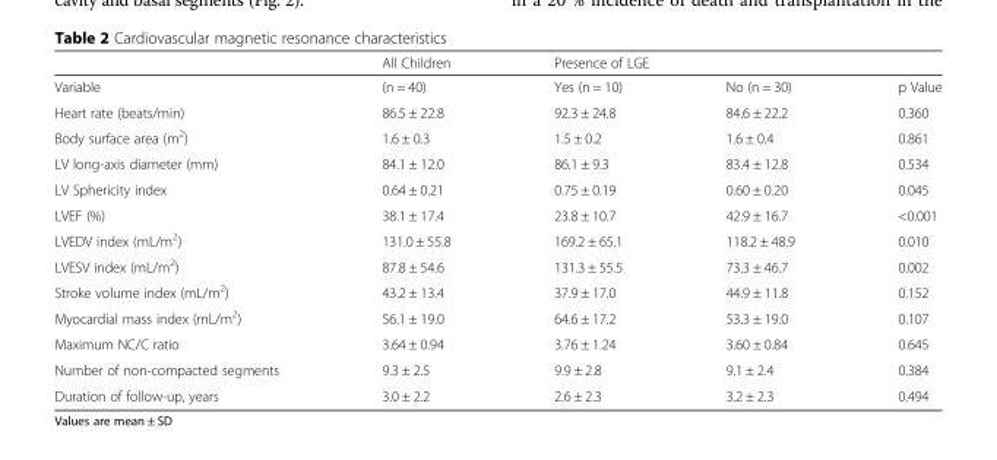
<table><thead><tr><td rowspan="2">Variable</td><td rowspan="2">All Children (n = 40)</td><td colspan="2">Presence of LGE</td><td rowspan="2">p Value</td></tr><tr><td>Yes (n = 10)</td><td>No (n = 30)</td></tr></thead><tbody><tr><td>Heart rate (beats/min)</td><td>86.5 ± 22.8</td><td>92.3 ± 24.8</td><td>84.6 ± 22.2</td><td>0.360</td></tr><tr><td>Body surface area (m<sup>2</sup>)</td><td>1.6 ± 0.3</td><td>1.5 ± 0.2</td><td>1.6 ± 0.4</td><td>0.861</td></tr><tr><td>LV long-axis diameter (mm)</td><td>84.1 ± 12.0</td><td>86.1 ± 9.3</td><td>83.4 ± 12.8</td><td>0.534</td></tr><tr><td>LV Sphericity index</td><td>0.64 ± 0.21</td><td>0.75 ± 0.19</td><td>0.60 ± 0.20</td><td>0.045</td></tr><tr><td>LVEF (%)</td><td>38.1 ± 17.4</td><td>23.8 ± 10.7</td><td>42.9 ± 16.7</td><td>&lt;0.001</td></tr><tr><td>LVEDV index (mL/m<sup>2</sup>)</td><td>131.0 ± 55.8</td><td>169.2 ± 65.1</td><td>118.2 ± 48.9</td><td>0.010</td></tr><tr><td>LVESV index (mL/m<sup>2</sup>)</td><td>87.8 ± 54.6</td><td>131.3 ± 55.5</td><td>73.3 ± 46.7</td><td>0.002</td></tr><tr><td>Stroke volume index (mL/m<sup>2</sup>)</td><td>43.2 ± 13.4</td><td>37.9 ± 17.0</td><td>44.9 ± 11.8</td><td>0.152</td></tr><tr><td>Myocardial mass index (mL/m<sup>2</sup>)</td><td>56.1 ± 19.0</td><td>64.6 ± 17.2</td><td>53.3 ± 19.0</td><td>0.107</td></tr><tr><td>Maximum NC/C ratio</td><td>3.64 ± 0.94</td><td>3.76 ± 1.24</td><td>3.60 ± 0.84</td><td>0.645</td></tr><tr><td>Number of non-compacted segments</td><td>9.3 ± 2.5</td><td>9.9 ± 2.8</td><td>9.1 ± 2.4</td><td>0.384</td></tr><tr><td>Duration of follow-up, years</td><td>3.0 ± 2.2</td><td>2.6 ± 2.3</td><td>3.2 ± 2.3</td><td>0.494</td></tr></tbody></table>